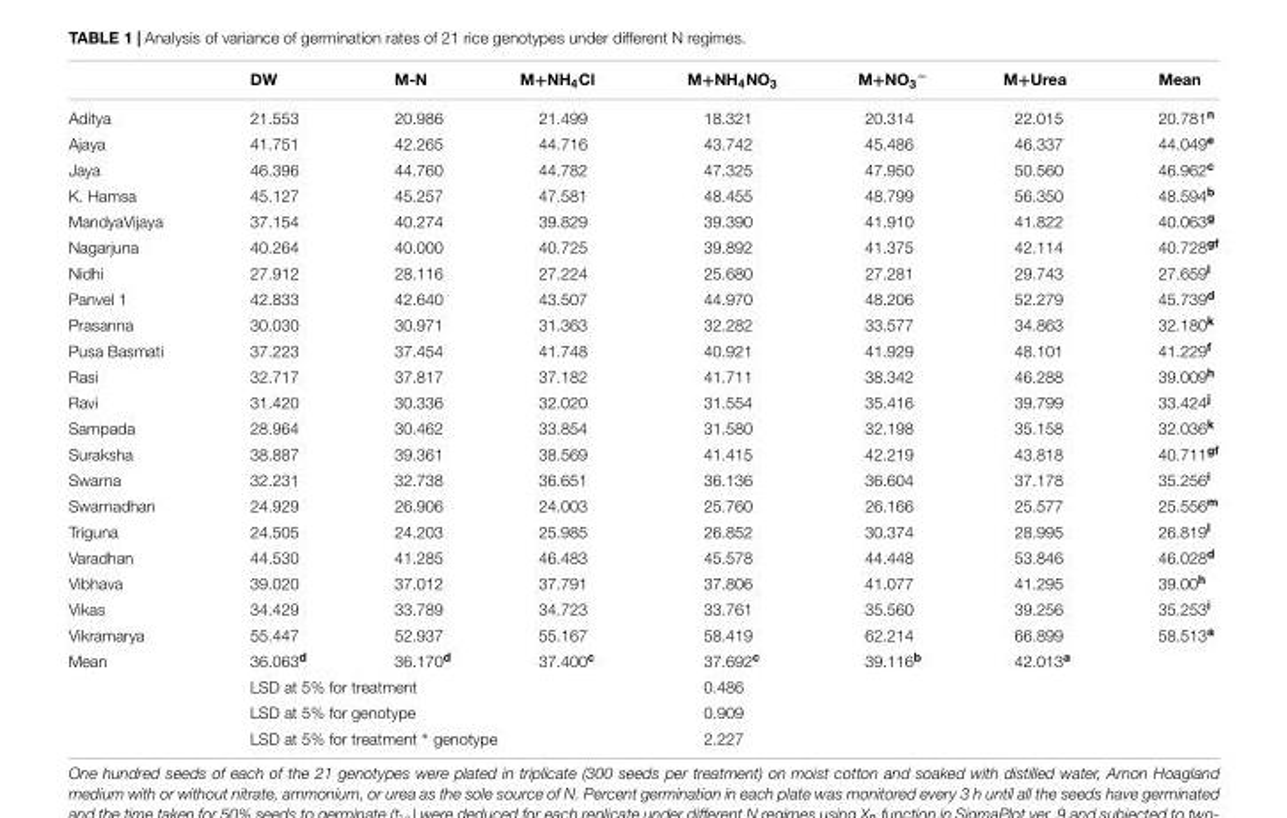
<table><thead><tr><td></td><td>DW</td><td>M-N</td><td>M+NH<sub>4</sub>Cl</td><td>M+NH<sub>4</sub>NO<sub>3</sub></td><td>M+NO<sub>3</sub><sup>−</sup></td><td>M+Urea</td><td>Mean</td></tr></thead><tbody><tr><td>Aditya</td><td>21.553</td><td>20.986</td><td>21.499</td><td>18.321</td><td>20.314</td><td>22.015</td><td>20.781<sup>n</sup></td></tr><tr><td>Ajaya</td><td>41.751</td><td>42.265</td><td>44.716</td><td>43.742</td><td>45.486</td><td>46.337</td><td>44.049<sup>e</sup></td></tr><tr><td>Jaya</td><td>46.396</td><td>44.760</td><td>44.782</td><td>47.325</td><td>47.950</td><td>50.560</td><td>46.962<sup>c</sup></td></tr><tr><td>K. Hamsa</td><td>45.127</td><td>45.257</td><td>47.581</td><td>48.455</td><td>48.799</td><td>56.350</td><td>48.594<sup>b</sup></td></tr><tr><td>MandyaVijaya</td><td>37.154</td><td>40.274</td><td>39.829</td><td>39.390</td><td>41.910</td><td>41.822</td><td>40.063<sup>g</sup></td></tr><tr><td>Nagarjuna</td><td>40.264</td><td>40.000</td><td>40.725</td><td>39.892</td><td>41.375</td><td>42.114</td><td>40.728<sup>gf</sup></td></tr><tr><td>Nidhi</td><td>27.912</td><td>28.116</td><td>27.224</td><td>25.680</td><td>27.281</td><td>29.743</td><td>27.659<sup>l</sup></td></tr><tr><td>Panvel 1</td><td>42.833</td><td>42.640</td><td>43.507</td><td>44.970</td><td>48.206</td><td>52.279</td><td>45.739<sup>d</sup></td></tr><tr><td>Prasanna</td><td>30.030</td><td>30.971</td><td>31.363</td><td>32.282</td><td>33.577</td><td>34.863</td><td>32.180<sup>k</sup></td></tr><tr><td>Pusa Basmati</td><td>37.223</td><td>37.454</td><td>41.748</td><td>40.921</td><td>41.929</td><td>48.101</td><td>41.229<sup>f</sup></td></tr><tr><td>Rasi</td><td>32.717</td><td>37.817</td><td>37.182</td><td>41.711</td><td>38.342</td><td>46.288</td><td>39.009<sup>h</sup></td></tr><tr><td>Ravi</td><td>31.420</td><td>30.336</td><td>32.020</td><td>31.554</td><td>35.416</td><td>39.799</td><td>33.424<sup>j</sup></td></tr><tr><td>Sampada</td><td>28.964</td><td>30.462</td><td>33.854</td><td>31.580</td><td>32.198</td><td>35.158</td><td>32.036<sup>k</sup></td></tr><tr><td>Suraksha</td><td>38.887</td><td>39.361</td><td>38.569</td><td>41.415</td><td>42.219</td><td>43.818</td><td>40.711<sup>gf</sup></td></tr><tr><td>Swarna</td><td>32.231</td><td>32.738</td><td>36.651</td><td>36.136</td><td>36.604</td><td>37.178</td><td>35.256<sup>i</sup></td></tr><tr><td>Swarnadhan</td><td>24.929</td><td>26.906</td><td>24.003</td><td>25.760</td><td>26.166</td><td>25.577</td><td>25.556<sup>m</sup></td></tr><tr><td>Triguna</td><td>24.505</td><td>24.203</td><td>25.985</td><td>26.852</td><td>30.374</td><td>28.995</td><td>26.819<sup>l</sup></td></tr><tr><td>Varadhan</td><td>44.530</td><td>41.285</td><td>46.483</td><td>45.578</td><td>44.448</td><td>53.846</td><td>46.028<sup>d</sup></td></tr><tr><td>Vibhava</td><td>39.020</td><td>37.012</td><td>37.791</td><td>37.806</td><td>41.077</td><td>41.295</td><td>39.00<sup>h</sup></td></tr><tr><td>Vikas</td><td>34.429</td><td>33.789</td><td>34.723</td><td>33.761</td><td>35.560</td><td>39.256</td><td>35.253<sup>i</sup></td></tr><tr><td>Vikramarya</td><td>55.447</td><td>52.937</td><td>55.167</td><td>58.419</td><td>62.214</td><td>66.899</td><td>58.513<sup>a</sup></td></tr><tr><td rowspan="4">Mean</td><td>36.063<sup>d</sup></td><td>36.170<sup>d</sup></td><td>37.400<sup>c</sup></td><td>37.692<sup>c</sup></td><td>39.116<sup>b</sup></td><td>42.013<sup>a</sup></td><td></td></tr><tr><td colspan="3">LSD at 5% for treatment</td><td>0.486</td><td></td><td></td><td></td></tr><tr><td colspan="3">LSD at 5% for genotype</td><td>0.909</td><td></td><td></td><td></td></tr><tr><td colspan="3">LSD at 5% for treatment ∗ genotype</td><td>2.227</td><td></td><td></td><td></td></tr></tbody></table>